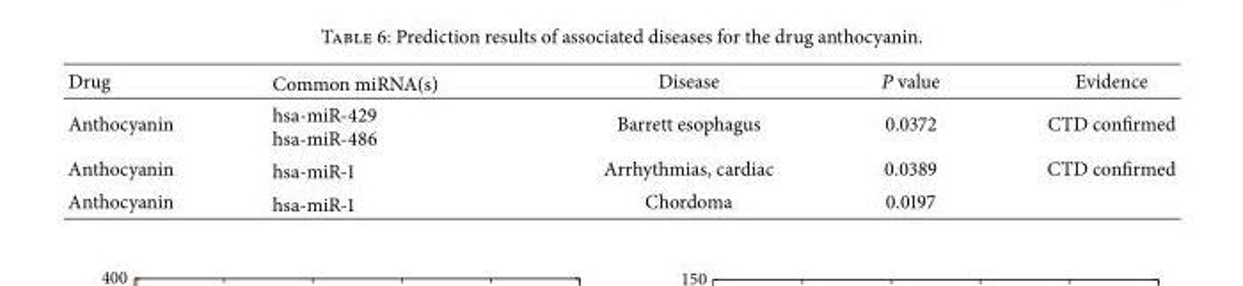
<table><thead><tr><td>Drug</td><td>Common miRNA(s)</td><td>Disease</td><td>P value</td><td>Evidence</td></tr></thead><tbody><tr><td>Anthocyanin</td><td>hsa-miR-429 hsa-miR-486</td><td>Barrett esophagus</td><td>0.0372</td><td>CTD confirmed</td></tr><tr><td>Anthocyanin</td><td>hsa-miR-1</td><td>Arrhythmias, cardiac</td><td>0.0389</td><td>CTD confirmed</td></tr><tr><td>Anthocyanin</td><td>hsa-miR-1</td><td>Chordoma</td><td>0.0197</td><td></td></tr></tbody></table>